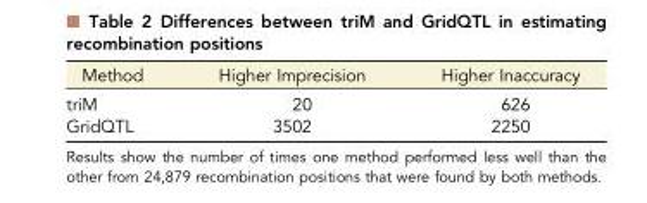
<table><thead><tr><td>Method</td><td>Higher Imprecision</td><td>Higher Inaccuracy</td></tr></thead><tbody><tr><td>triM</td><td>20</td><td>626</td></tr><tr><td>GridQTL</td><td>3502</td><td>2250</td></tr></tbody></table>